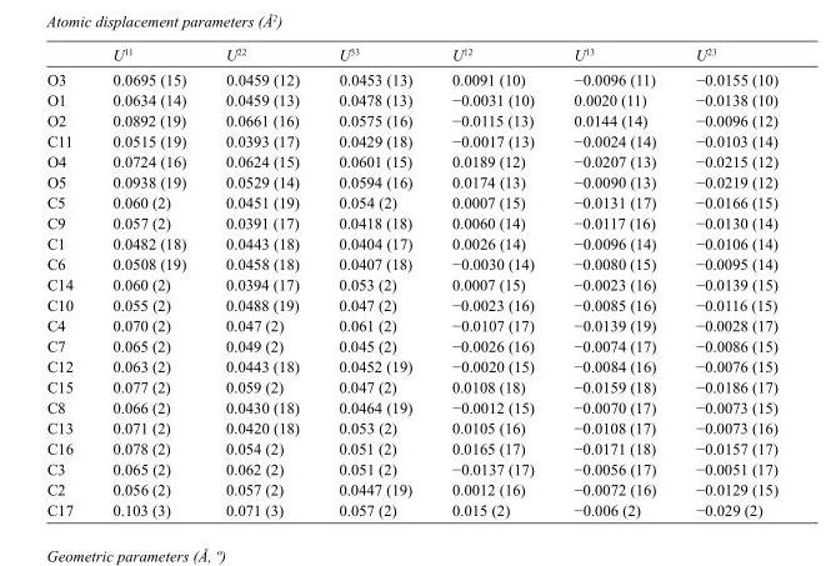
<table><thead><tr><td></td><td>U<sup>11</sup></td><td>U<sup>22</sup></td><td>U<sup>33</sup></td><td>U<sup>12</sup></td><td>U<sup>13</sup></td><td>U<sup>23</sup></td></tr></thead><tbody><tr><td>O3</td><td>0.0695 (15)</td><td>0.0459 (12)</td><td>0.0453 (13)</td><td>0.0091 (10)</td><td>−0.0096 (11)</td><td>−0.0155 (10)</td></tr><tr><td>O1</td><td>0.0634 (14)</td><td>0.0459 (13)</td><td>0.0478 (13)</td><td>−0.0031 (10)</td><td>0.0020 (11)</td><td>−0.0138 (10)</td></tr><tr><td>O2</td><td>0.0892 (19)</td><td>0.0661 (16)</td><td>0.0575 (16)</td><td>−0.0115 (13)</td><td>0.0144 (14)</td><td>−0.0096 (12)</td></tr><tr><td>C11</td><td>0.0515 (19)</td><td>0.0393 (17)</td><td>0.0429 (18)</td><td>−0.0017 (13)</td><td>−0.0024 (14)</td><td>−0.0103 (14)</td></tr><tr><td>O4</td><td>0.0724 (16)</td><td>0.0624 (15)</td><td>0.0601 (15)</td><td>0.0189 (12)</td><td>−0.0207 (13)</td><td>−0.0215 (12)</td></tr><tr><td>O5</td><td>0.0938 (19)</td><td>0.0529 (14)</td><td>0.0594 (16)</td><td>0.0174 (13)</td><td>−0.0090 (13)</td><td>−0.0219 (12)</td></tr><tr><td>C5</td><td>0.060 (2)</td><td>0.0451 (19)</td><td>0.054 (2)</td><td>0.0007 (15)</td><td>−0.0131 (17)</td><td>−0.0166 (15)</td></tr><tr><td>C9</td><td>0.057 (2)</td><td>0.0391 (17)</td><td>0.0418 (18)</td><td>0.0060 (14)</td><td>−0.0117 (16)</td><td>−0.0130 (14)</td></tr><tr><td>C1</td><td>0.0482 (18)</td><td>0.0443 (18)</td><td>0.0404 (17)</td><td>0.0026 (14)</td><td>−0.0096 (14)</td><td>−0.0106 (14)</td></tr><tr><td>C6</td><td>0.0508 (19)</td><td>0.0458 (18)</td><td>0.0407 (18)</td><td>−0.0030 (14)</td><td>−0.0080 (15)</td><td>−0.0095 (14)</td></tr><tr><td>C14</td><td>0.060 (2)</td><td>0.0394 (17)</td><td>0.053 (2)</td><td>0.0007 (15)</td><td>−0.0023 (16)</td><td>−0.0139 (15)</td></tr><tr><td>C10</td><td>0.055 (2)</td><td>0.0488 (19)</td><td>0.047 (2)</td><td>−0.0023 (16)</td><td>−0.0085 (16)</td><td>−0.0116 (15)</td></tr><tr><td>C4</td><td>0.070 (2)</td><td>0.047 (2)</td><td>0.061 (2)</td><td>−0.0107 (17)</td><td>−0.0139 (19)</td><td>−0.0028 (17)</td></tr><tr><td>C7</td><td>0.065 (2)</td><td>0.049 (2)</td><td>0.045 (2)</td><td>−0.0026 (16)</td><td>−0.0074 (17)</td><td>−0.0086 (15)</td></tr><tr><td>C12</td><td>0.063 (2)</td><td>0.0443 (18)</td><td>0.0452 (19)</td><td>−0.0020 (15)</td><td>−0.0084 (16)</td><td>−0.0076 (15)</td></tr><tr><td>C15</td><td>0.077 (2)</td><td>0.059 (2)</td><td>0.047 (2)</td><td>0.0108 (18)</td><td>−0.0159 (18)</td><td>−0.0186 (17)</td></tr><tr><td>C8</td><td>0.066 (2)</td><td>0.0430 (18)</td><td>0.0464 (19)</td><td>−0.0012 (15)</td><td>−0.0070 (17)</td><td>−0.0073 (15)</td></tr><tr><td>C13</td><td>0.071 (2)</td><td>0.0420 (18)</td><td>0.053 (2)</td><td>0.0105 (16)</td><td>−0.0108 (17)</td><td>−0.0073 (16)</td></tr><tr><td>C16</td><td>0.078 (2)</td><td>0.054 (2)</td><td>0.051 (2)</td><td>0.0165 (17)</td><td>−0.0171 (18)</td><td>−0.0157 (17)</td></tr><tr><td>C3</td><td>0.065 (2)</td><td>0.062 (2)</td><td>0.051 (2)</td><td>−0.0137 (17)</td><td>−0.0056 (17)</td><td>−0.0051 (17)</td></tr><tr><td>C2</td><td>0.056 (2)</td><td>0.057 (2)</td><td>0.0447 (19)</td><td>0.0012 (16)</td><td>−0.0072 (16)</td><td>−0.0129 (15)</td></tr><tr><td>C17</td><td>0.103 (3)</td><td>0.071 (3)</td><td>0.057 (2)</td><td>0.015 (2)</td><td>−0.006 (2)</td><td>−0.029 (2)</td></tr></tbody></table>